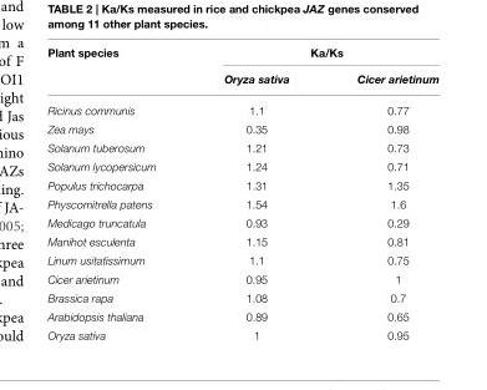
<table><thead><tr><td rowspan="2">Plant species</td><td colspan="2">Ka/Ks</td></tr><tr><td>Oryza sativa</td><td>Cicer arietinum</td></tr></thead><tbody><tr><td>Ricinus communis</td><td>1.1</td><td>0.77</td></tr><tr><td>Zea mays</td><td>0.35</td><td>0.98</td></tr><tr><td>Solanum tuberosum</td><td>1.21</td><td>0.73</td></tr><tr><td>Solanum lycopersicum</td><td>1.24</td><td>0.71</td></tr><tr><td>Populus trichocarpa</td><td>1.31</td><td>1.35</td></tr><tr><td>Physcomitrella patens</td><td>1.54</td><td>1.6</td></tr><tr><td>Medicago truncatula</td><td>0.93</td><td>0.29</td></tr><tr><td>Manihot esculenta</td><td>1.15</td><td>0.81</td></tr><tr><td>Linum usitatissimum</td><td>1.1</td><td>0.75</td></tr><tr><td>Cicer arietinum</td><td>0.95</td><td>1</td></tr><tr><td>Brassica rapa</td><td>1.08</td><td>0.7</td></tr><tr><td>Arabidopsis thaliana</td><td>0.89</td><td>0.65</td></tr><tr><td>Oryza sativa</td><td>1</td><td>0.95</td></tr></tbody></table>